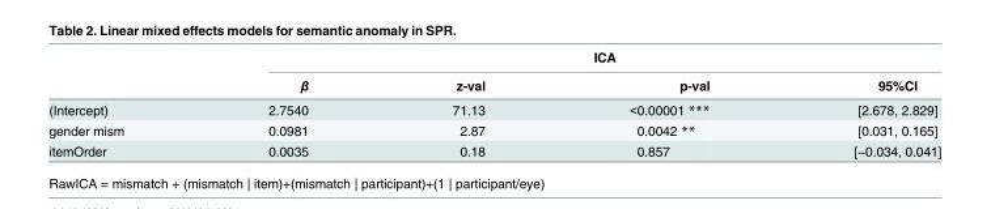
<table><thead><tr><td rowspan="2"></td><td colspan="4">ICA</td></tr><tr><td>β</td><td>z-val</td><td>p-val</td><td>95%CI</td></tr></thead><tbody><tr><td>(Intercept)</td><td>2.7540</td><td>71.13</td><td>&lt;0.00001 ***</td><td>[2.678, 2.829]</td></tr><tr><td>gender mism</td><td>0.0981</td><td>2.87</td><td>0.0042 **</td><td>[0.031, 0.165]</td></tr><tr><td>itemOrder</td><td>0.0035</td><td>0.18</td><td>0.857</td><td>[−0.034, 0.041]</td></tr></tbody></table>